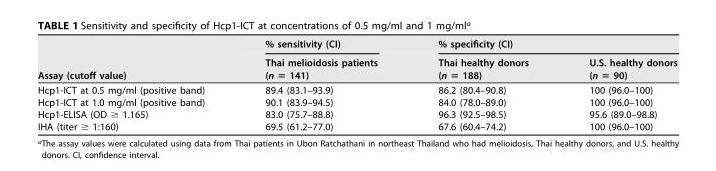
<table><thead><tr><td rowspan="2">Assay (cutoff value)</td><td rowspan="2">% sensitivity (CI) Thai melioidosis patients (n = 141)</td><td colspan="2">% specificity (CI)</td></tr><tr><td>Thai healthy donors (n = 188)</td><td>U.S. healthy donors (n = 90)</td></tr></thead><tbody><tr><td>Hcp1-ICT at 0.5 mg/ml (positive band)</td><td>89.4 (83.1–93.9)</td><td>86.2 (80.4–90.8)</td><td>100 (96.0–100)</td></tr><tr><td>Hcp1-ICT at 1.0 mg/ml (positive band)</td><td>90.1 (83.9–94.5)</td><td>84.0 (78.0–89.0)</td><td>100 (96.0–100)</td></tr><tr><td>Hcp1-ELISA (OD ≥ 1.165)</td><td>83.0 (75.7–88.8)</td><td>96.3 (92.5–98.5)</td><td>95.6 (89.0–98.8)</td></tr><tr><td>IHA (titer ≥ 1:160)</td><td>69.5 (61.2–77.0)</td><td>67.6 (60.4–74.2)</td><td>100 (96.0–100)</td></tr></tbody></table>